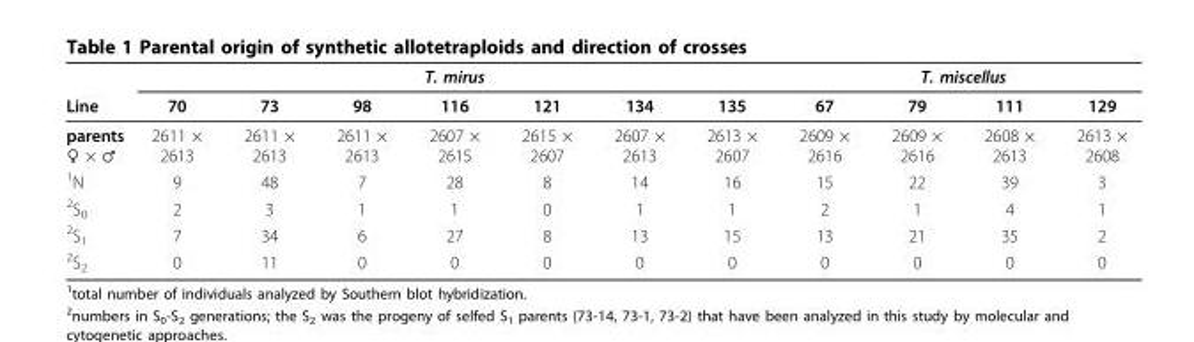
<table><thead><tr><td rowspan="2">Line</td><td colspan="7">T. mirus</td><td colspan="4">T. miscellus</td></tr><tr><td>70</td><td>73</td><td>98</td><td>116</td><td>121</td><td>134</td><td>135</td><td>67</td><td>79</td><td>111</td><td>129</td></tr></thead><tbody><tr><td>parents ♀ × ♂</td><td>2611 × 2613</td><td>2611 × 2613</td><td>2611 × 2613</td><td>2607 × 2615</td><td>2615 × 2607</td><td>2607 × 2613</td><td>2613 × 2607</td><td>2609 × 2616</td><td>2609 × 2616</td><td>2608 × 2613</td><td>2613 × 2608</td></tr><tr><td><sup>1</sup>N</td><td>9</td><td>48</td><td>7</td><td>28</td><td>8</td><td>14</td><td>16</td><td>15</td><td>22</td><td>39</td><td>3</td></tr><tr><td><sup>2</sup>S<sub>0</sub></td><td>2</td><td>3</td><td>1</td><td>1</td><td>0</td><td>1</td><td>1</td><td>2</td><td>1</td><td>4</td><td>1</td></tr><tr><td><sup>2</sup>S<sub>1</sub></td><td>7</td><td>34</td><td>6</td><td>27</td><td>8</td><td>13</td><td>15</td><td>13</td><td>21</td><td>35</td><td>2</td></tr><tr><td><sup>2</sup>S<sub>2</sub></td><td>0</td><td>11</td><td>0</td><td>0</td><td>0</td><td>0</td><td>0</td><td>0</td><td>0</td><td>0</td><td>0</td></tr></tbody></table>